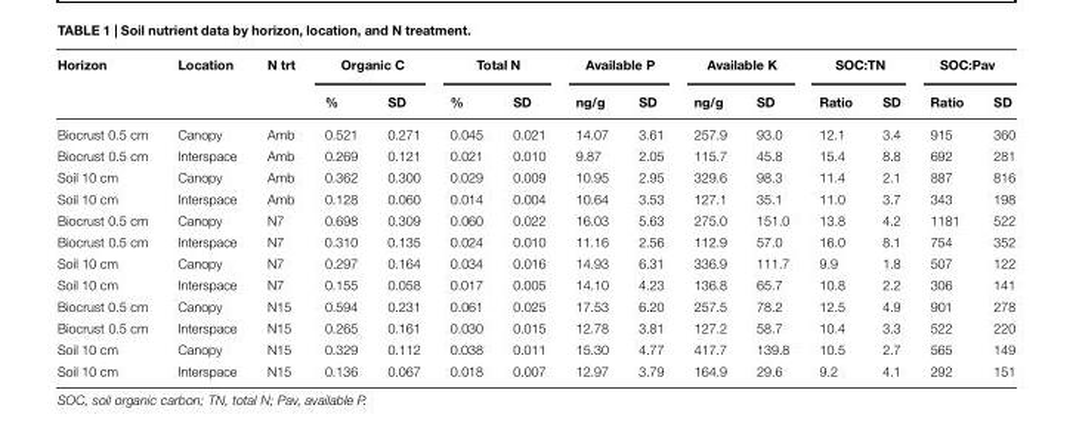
<table><thead><tr><td rowspan="2">Horizon</td><td rowspan="2">Location</td><td rowspan="2">N trt</td><td colspan="2">Organic C</td><td colspan="2">Total N</td><td colspan="2">Available P</td><td colspan="2">Available K</td><td colspan="2">SOC:TN</td><td colspan="2">SOC:Pav</td></tr><tr><td>%</td><td>SD</td><td>%</td><td>SD</td><td>ng/g</td><td>SD</td><td>ng/g</td><td>SD</td><td>Ratio</td><td>SD</td><td>Ratio</td><td>SD</td></tr></thead><tbody><tr><td>Biocrust 0.5 cm</td><td>Canopy</td><td>Amb</td><td>0.521</td><td>0.271</td><td>0.045</td><td>0.021</td><td>14.07</td><td>3.61</td><td>257.9</td><td>93.0</td><td>12.1</td><td>3.4</td><td>915</td><td>360</td></tr><tr><td>Biocrust 0.5 cm</td><td>Interspace</td><td>Amb</td><td>0.269</td><td>0.121</td><td>0.021</td><td>0.010</td><td>9.87</td><td>2.05</td><td>115.7</td><td>45.8</td><td>15.4</td><td>8.8</td><td>692</td><td>281</td></tr><tr><td>Soil 10 cm</td><td>Canopy</td><td>Amb</td><td>0.362</td><td>0.300</td><td>0.029</td><td>0.009</td><td>10.95</td><td>2.95</td><td>329.6</td><td>98.3</td><td>11.4</td><td>2.1</td><td>887</td><td>816</td></tr><tr><td>Soil 10 cm</td><td>Interspace</td><td>Amb</td><td>0.128</td><td>0.060</td><td>0.014</td><td>0.004</td><td>10.64</td><td>3.53</td><td>127.1</td><td>35.1</td><td>11.0</td><td>3.7</td><td>343</td><td>198</td></tr><tr><td>Biocrust 0.5 cm</td><td>Canopy</td><td>N7</td><td>0.698</td><td>0.309</td><td>0.060</td><td>0.022</td><td>16.03</td><td>5.63</td><td>275.0</td><td>151.0</td><td>13.8</td><td>4.2</td><td>1181</td><td>522</td></tr><tr><td>Biocrust 0.5 cm</td><td>Interspace</td><td>N7</td><td>0.310</td><td>0.135</td><td>0.024</td><td>0.010</td><td>11.16</td><td>2.56</td><td>112.9</td><td>57.0</td><td>16.0</td><td>8.1</td><td>754</td><td>352</td></tr><tr><td>Soil 10 cm</td><td>Canopy</td><td>N7</td><td>0.297</td><td>0.164</td><td>0.034</td><td>0.016</td><td>14.93</td><td>6.31</td><td>336.9</td><td>111.7</td><td>9.9</td><td>1.8</td><td>507</td><td>122</td></tr><tr><td>Soil 10 cm</td><td>Interspace</td><td>N7</td><td>0.155</td><td>0.058</td><td>0.017</td><td>0.005</td><td>14.10</td><td>4.23</td><td>136.8</td><td>65.7</td><td>10.8</td><td>2.2</td><td>306</td><td>141</td></tr><tr><td>Biocrust 0.5 cm</td><td>Canopy</td><td>N15</td><td>0.594</td><td>0.231</td><td>0.061</td><td>0.025</td><td>17.53</td><td>6.20</td><td>257.5</td><td>78.2</td><td>12.5</td><td>4.9</td><td>901</td><td>278</td></tr><tr><td>Biocrust 0.5 cm</td><td>Interspace</td><td>N15</td><td>0.265</td><td>0.161</td><td>0.030</td><td>0.015</td><td>12.78</td><td>3.81</td><td>127.2</td><td>58.7</td><td>10.4</td><td>3.3</td><td>522</td><td>220</td></tr><tr><td>Soil 10 cm</td><td>Canopy</td><td>N15</td><td>0.329</td><td>0.112</td><td>0.038</td><td>0.011</td><td>15.30</td><td>4.77</td><td>417.7</td><td>139.8</td><td>10.5</td><td>2.7</td><td>565</td><td>149</td></tr><tr><td>Soil 10 cm</td><td>Interspace</td><td>N15</td><td>0.136</td><td>0.067</td><td>0.018</td><td>0.007</td><td>12.97</td><td>3.79</td><td>164.9</td><td>29.6</td><td>9.2</td><td>4.1</td><td>292</td><td>151</td></tr></tbody></table>